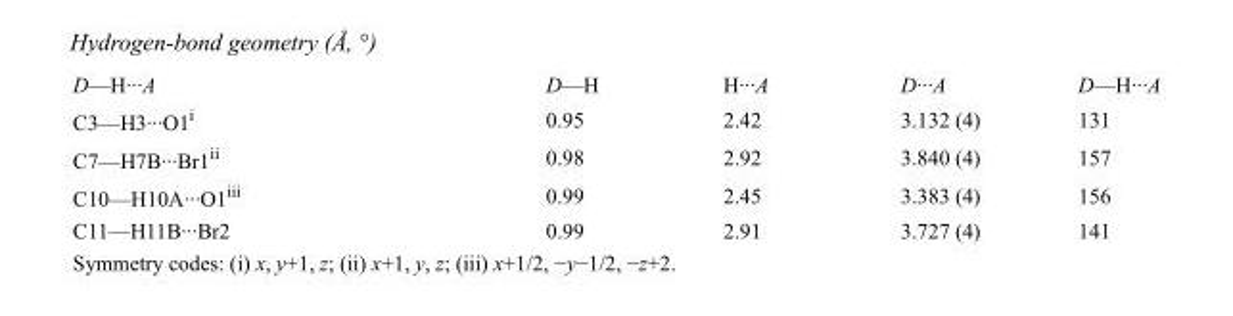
<table><tbody><tr><td>D—H···A</td><td>D—H</td><td>H···A</td><td>D···A</td><td>D—H···A</td></tr><tr><td>C3—H3···O1<sup>i</sup></td><td>0.95</td><td>2.42</td><td>3.132 (4)</td><td>131</td></tr><tr><td>C7—H7B···Br1<sup>ii</sup></td><td>0.98</td><td>2.92</td><td>3.840 (4)</td><td>157</td></tr><tr><td>C10—H10A···O1<sup>iii</sup></td><td>0.99</td><td>2.45</td><td>3.383 (4)</td><td>156</td></tr><tr><td>C11—H11B···Br2</td><td>0.99</td><td>2.91</td><td>3.727 (4)</td><td>141</td></tr></tbody></table>